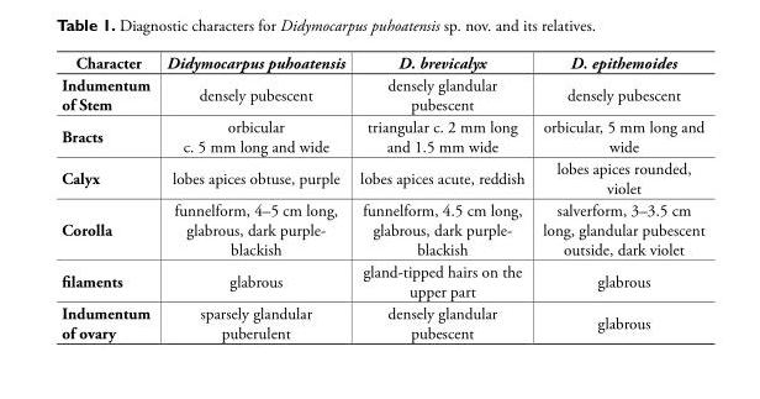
<table><thead><tr><td>Character</td><td>Didymocarpus puhoatensis</td><td>D. brevicalyx</td><td>D. epithemoides</td></tr></thead><tbody><tr><td>Indumentum of Stem</td><td>densely pubescent</td><td>densely glandular pubescent</td><td>densely pubescent</td></tr><tr><td>Bracts</td><td>orbicular c. 5 mm long and wide</td><td>triangular c. 2 mm long and 1.5 mm wide</td><td>orbicular, 5 mm long and wide</td></tr><tr><td>Calyx</td><td>lobes apices obtuse, purple</td><td>lobes apices acute, reddish</td><td>lobes apices rounded, violet</td></tr><tr><td>Corolla</td><td>funnelform, 4–5 cm long, glabrous, dark purple- blackish</td><td>funnelform, 4.5 cm long, glabrous, dark purple- blackish</td><td>salverform, 3–3.5 cm long, glandular pubescent outside, dark violet</td></tr><tr><td>filaments</td><td>glabrous</td><td>gland-tipped hairs on the upper part</td><td>glabrous</td></tr><tr><td>Indumentum of ovary</td><td>sparsely glandular puberulent</td><td>densely glandular pubescent</td><td>glabrous</td></tr></tbody></table>